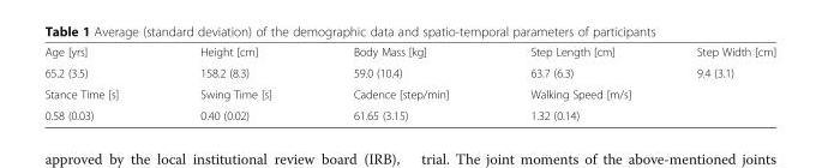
<table><tbody><tr><td>Age [yrs]</td><td>Height [cm]</td><td>Body Mass [kg]</td><td>Step Length [cm]</td><td>Step Width [cm]</td></tr><tr><td>65.2 (3.5)</td><td>158.2 (8.3)</td><td>59.0 (10.4)</td><td>63.7 (6.3)</td><td>9.4 (3.1)</td></tr><tr><td>Stance Time [s]</td><td>Swing Time [s]</td><td>Cadence [step/min]</td><td colspan="2">Walking Speed [m/s]</td></tr><tr><td>0.58 (0.03)</td><td>0.40 (0.02)</td><td>61.65 (3.15)</td><td colspan="2">1.32 (0.14)</td></tr></tbody></table>